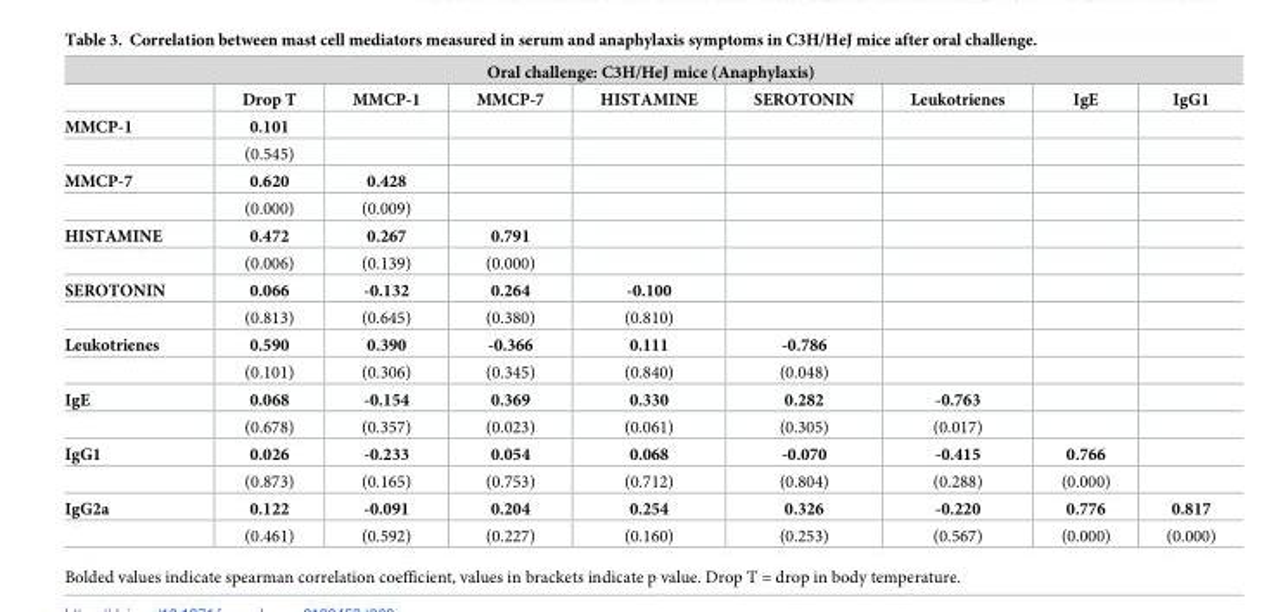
<table><thead><tr><td colspan="9">Oral challenge: C3H/HeJ mice (Anaphylaxis)</td></tr><tr><td></td><td>Drop T</td><td>MMCP-1</td><td>MMCP-7</td><td>HISTAMINE</td><td>SEROTONIN</td><td>Leukotrienes</td><td>IgE</td><td>IgG1</td></tr></thead><tbody><tr><td rowspan="2">MMCP-1</td><td>0.101</td><td></td><td></td><td></td><td></td><td></td><td></td><td></td></tr><tr><td>(0.545)</td><td></td><td></td><td></td><td></td><td></td><td></td><td></td></tr><tr><td rowspan="2">MMCP-7</td><td>0.620</td><td>0.428</td><td></td><td></td><td></td><td></td><td></td><td></td></tr><tr><td>(0.000)</td><td>(0.009)</td><td></td><td></td><td></td><td></td><td></td><td></td></tr><tr><td rowspan="2">HISTAMINE</td><td>0.472</td><td>0.267</td><td>0.791</td><td></td><td></td><td></td><td></td><td></td></tr><tr><td>(0.006)</td><td>(0.139)</td><td>(0.000)</td><td></td><td></td><td></td><td></td><td></td></tr><tr><td rowspan="2">SEROTONIN</td><td>0.066</td><td>-0.132</td><td>0.264</td><td>-0.100</td><td></td><td></td><td></td><td></td></tr><tr><td>(0.813)</td><td>(0.645)</td><td>(0.380)</td><td>(0.810)</td><td></td><td></td><td></td><td></td></tr><tr><td rowspan="2">Leukotrienes</td><td>0.590</td><td>0.390</td><td>-0.366</td><td>0.111</td><td>-0.786</td><td></td><td></td><td></td></tr><tr><td>(0.101)</td><td>(0.306)</td><td>(0.345)</td><td>(0.840)</td><td>(0.048)</td><td></td><td></td><td></td></tr><tr><td rowspan="2">IgE</td><td>0.068</td><td>-0.154</td><td>0.369</td><td>0.330</td><td>0.282</td><td>-0.763</td><td></td><td></td></tr><tr><td>(0.678)</td><td>(0.357)</td><td>(0.023)</td><td>(0.061)</td><td>(0.305)</td><td>(0.017)</td><td></td><td></td></tr><tr><td rowspan="2">IgG1</td><td>0.026</td><td>-0.233</td><td>0.054</td><td>0.068</td><td>-0.070</td><td>-0.415</td><td>0.766</td><td></td></tr><tr><td>(0.873)</td><td>(0.165)</td><td>(0.753)</td><td>(0.712)</td><td>(0.804)</td><td>(0.288)</td><td>(0.000)</td><td></td></tr><tr><td rowspan="2">IgG2a</td><td>0.122</td><td>-0.091</td><td>0.204</td><td>0.254</td><td>0.326</td><td>-0.220</td><td>0.776</td><td>0.817</td></tr><tr><td>(0.461)</td><td>(0.592)</td><td>(0.227)</td><td>(0.160)</td><td>(0.253)</td><td>(0.567)</td><td>(0.000)</td><td>(0.000)</td></tr></tbody></table>